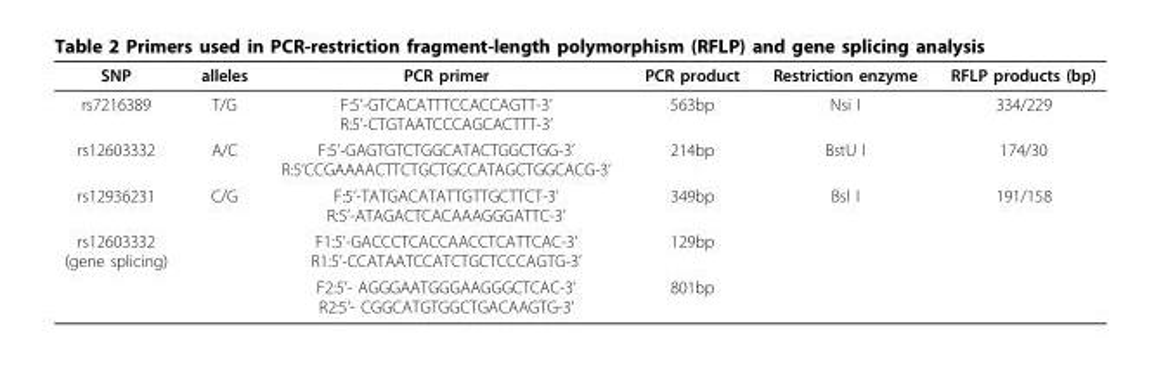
<table><thead><tr><td>SNP</td><td>alleles</td><td>PCR primer</td><td>PCR product</td><td>Restriction enzyme</td><td>RFLP products (bp)</td></tr></thead><tbody><tr><td>rs7216389</td><td>T/G</td><td>F:5’-GTCACATTTCCACCAGTT-3’ R:5’-CTGTAATCCCAGCACTTT-3’</td><td>563bp</td><td>Nsi I</td><td>334/229</td></tr><tr><td>rs12603332</td><td>A/C</td><td>F:5’-GAGTGTCTGGCATACTGGCTGG-3’ R:5’CCGAAAACTTCTGCTGCCATAGCTGGCACG-3’</td><td>214bp</td><td>BstU I</td><td>174/30</td></tr><tr><td>rs12936231</td><td>C/G</td><td>F:5’-TATGACATATTGTTGCTTCT-3’ R:5’-ATAGACTCACAAAGGGATTC-3’</td><td>349bp</td><td>Bsl I</td><td>191/158</td></tr><tr><td rowspan="2">rs12603332 (gene splicing)</td><td></td><td>F1:5’-GACCCTCACCAACCTCATTCAC-3’ R1:5’-CCATAATCCATCTGCTCCCAGTG-3’</td><td>129bp</td><td></td><td></td></tr><tr><td></td><td>F2:5’- AGGGAATGGGAAGGGCTCAC-3’ R2:5’- CGGCATGTGGCTGACAAGTG-3’</td><td>801bp</td><td></td><td></td></tr></tbody></table>